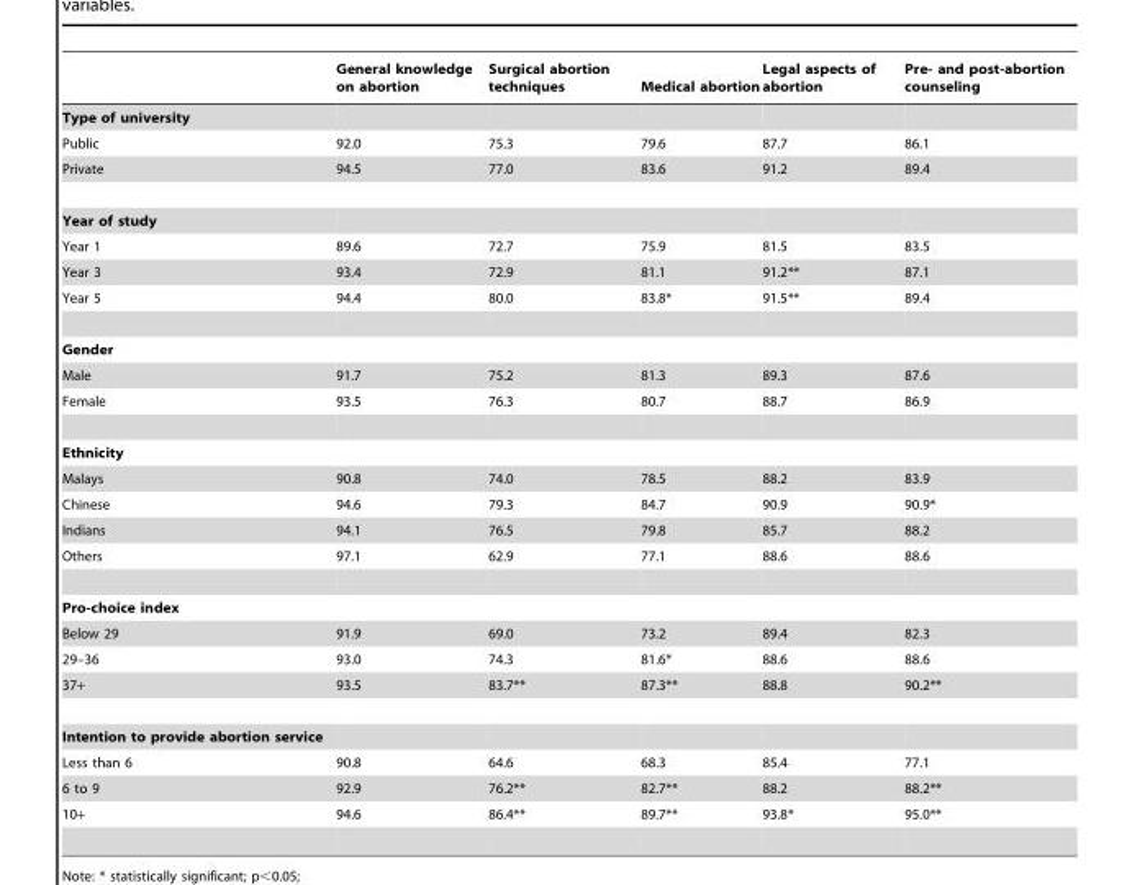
<table><thead><tr><td></td><td>General knowledge on abortion</td><td>Surgical abortion techniques</td><td>Medical abortion</td><td>Legal aspects of abortion</td><td>Pre- and post-abortion counseling</td></tr></thead><tbody><tr><td colspan="6">Type of university</td></tr><tr><td>Public</td><td>92.0</td><td>75.3</td><td>79.6</td><td>87.7</td><td>86.1</td></tr><tr><td>Private</td><td>94.5</td><td>77.0</td><td>83.6</td><td>91.2</td><td>89.4</td></tr><tr><td colspan="6">Year of study</td></tr><tr><td>Year 1</td><td>89.6</td><td>72.7</td><td>75.9</td><td>81.5</td><td>83.5</td></tr><tr><td>Year 3</td><td>93.4</td><td>72.9</td><td>81.1</td><td>91.2**</td><td>87.1</td></tr><tr><td>Year 5</td><td>94.4</td><td>80.0</td><td>83.8*</td><td>91.5**</td><td>89.4</td></tr><tr><td colspan="6">Gender</td></tr><tr><td>Male</td><td>91.7</td><td>75.2</td><td>81.3</td><td>89.3</td><td>87.6</td></tr><tr><td>Female</td><td>93.5</td><td>76.3</td><td>80.7</td><td>88.7</td><td>86.9</td></tr><tr><td colspan="6">Ethnicity</td></tr><tr><td>Malays</td><td>90.8</td><td>74.0</td><td>78.5</td><td>88.2</td><td>83.9</td></tr><tr><td>Chinese</td><td>94.6</td><td>79.3</td><td>84.7</td><td>90.9</td><td>90.9*</td></tr><tr><td>Indians</td><td>94.1</td><td>76.5</td><td>79.8</td><td>85.7</td><td>88.2</td></tr><tr><td>Others</td><td>97.1</td><td>62.9</td><td>77.1</td><td>88.6</td><td>88.6</td></tr><tr><td colspan="6">Pro-choice index</td></tr><tr><td>Below 29</td><td>91.9</td><td>69.0</td><td>73.2</td><td>89.4</td><td>82.3</td></tr><tr><td>29–36</td><td>93.0</td><td>74.3</td><td>81.6*</td><td>88.6</td><td>88.6</td></tr><tr><td>37+</td><td>93.5</td><td>83.7**</td><td>87.3**</td><td>88.8</td><td>90.2**</td></tr><tr><td colspan="6">Intention to provide abortion service</td></tr><tr><td>Less than 6</td><td>90.8</td><td>64.6</td><td>68.3</td><td>85.4</td><td>77.1</td></tr><tr><td>6 to 9</td><td>92.9</td><td>76.2**</td><td>82.7**</td><td>88.2</td><td>88.2**</td></tr><tr><td>10+</td><td>94.6</td><td>86.4**</td><td>89.7**</td><td>93.8*</td><td>95.0**</td></tr></tbody></table>